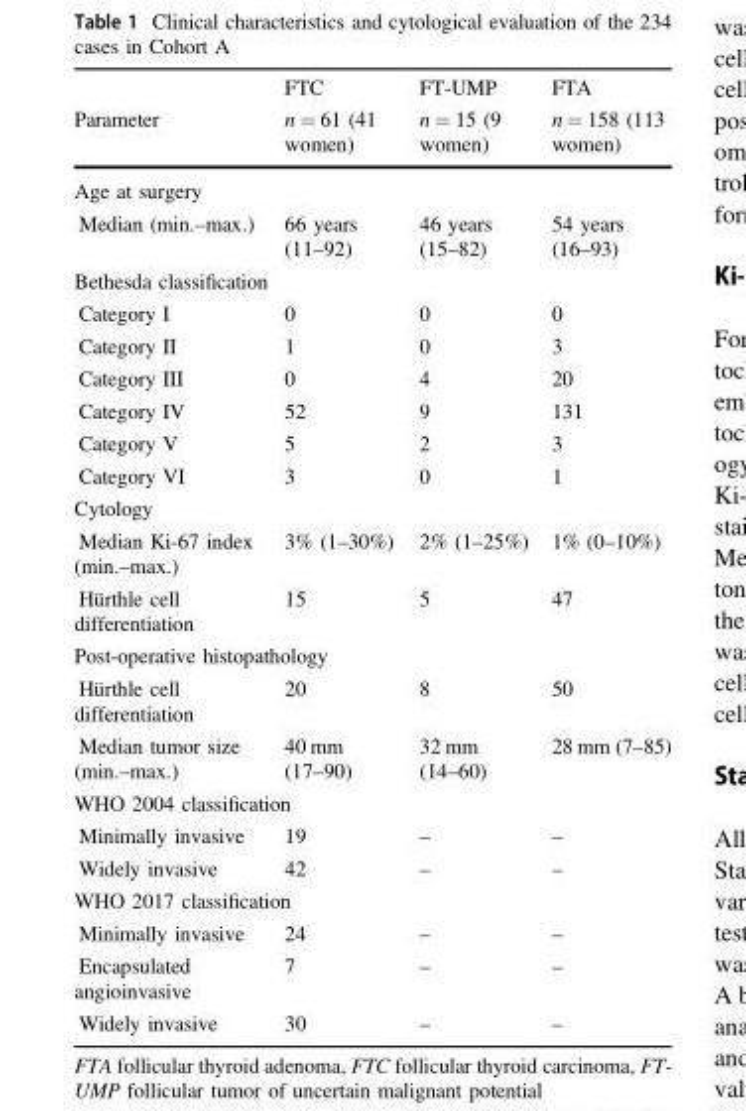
<table><thead><tr><td rowspan="2">Parameter</td><td rowspan="2">FTC n = 61 (41 women)</td><td rowspan="2">FT-UMP n = 15 (9 women)</td><td rowspan="2">FTA n = 158 (113 women)</td></tr><tr></tr></thead><tbody><tr><td colspan="4">Age at surgery</td></tr><tr><td>Median (min.–max.)</td><td>66 years (11–92)</td><td>46 years (15–82)</td><td>54 years (16–93)</td></tr><tr><td colspan="4">Bethesda classification</td></tr><tr><td>Category I</td><td>0</td><td>0</td><td>0</td></tr><tr><td>Category II</td><td>1</td><td>0</td><td>3</td></tr><tr><td>Category III</td><td>0</td><td>4</td><td>20</td></tr><tr><td>Category IV</td><td>52</td><td>9</td><td>131</td></tr><tr><td>Category V</td><td>5</td><td>2</td><td>3</td></tr><tr><td>Category VI</td><td>3</td><td>0</td><td>1</td></tr><tr><td colspan="4">Cytology</td></tr><tr><td>Median Ki-67 index (min.–max.)</td><td>3% (1–30%)</td><td>2% (1–25%)</td><td>1% (0–10%)</td></tr><tr><td>Hürthle cell differentiation</td><td>15</td><td>5</td><td>47</td></tr><tr><td colspan="4">Post-operative histopathology</td></tr><tr><td>Hürthle cell differentiation</td><td>20</td><td>8</td><td>50</td></tr><tr><td>Median tumor size (min.–max.)</td><td>40 mm (17–90)</td><td>32 mm (14–60)</td><td>28 mm (7–85)</td></tr><tr><td colspan="4">WHO 2004 classification</td></tr><tr><td>Minimally invasive</td><td>19</td><td>–</td><td>–</td></tr><tr><td>Widely invasive</td><td>42</td><td>–</td><td>–</td></tr><tr><td colspan="4">WHO 2017 classification</td></tr><tr><td>Minimally invasive</td><td>24</td><td>–</td><td>–</td></tr><tr><td>Encapsulated angioinvasive</td><td>7</td><td>–</td><td>–</td></tr><tr><td>Widely invasive</td><td>30</td><td>–</td><td>–</td></tr></tbody></table>